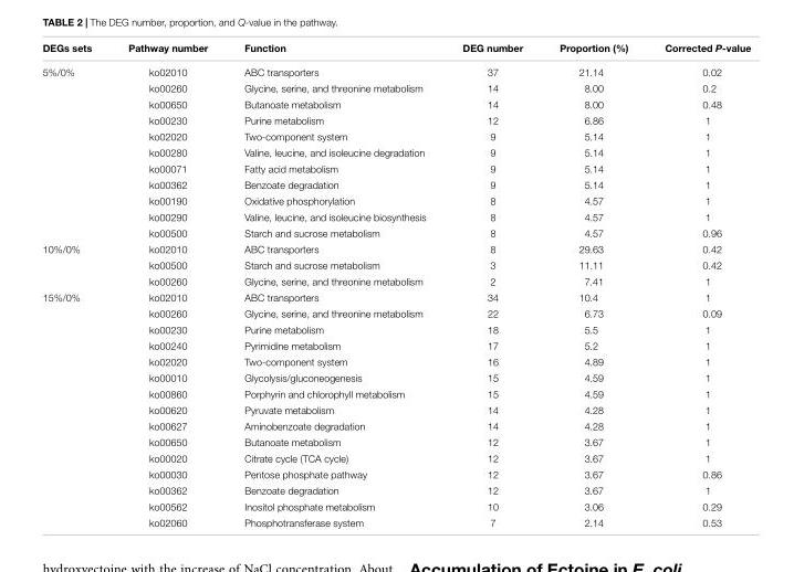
<table><thead><tr><td>DEGs sets</td><td>Pathway number</td><td>Function</td><td>DEG number</td><td>Proportion (%)</td><td>Corrected P-value</td></tr></thead><tbody><tr><td rowspan="11">5%/0%</td><td>ko02010</td><td>ABC transporters</td><td>37</td><td>21.14</td><td>0.02</td></tr><tr><td>ko00260</td><td>Glycine, serine, and threonine metabolism</td><td>14</td><td>8.00</td><td>0.2</td></tr><tr><td>ko00650</td><td>Butanoate metabolism</td><td>14</td><td>8.00</td><td>0.48</td></tr><tr><td>ko00230</td><td>Purine metabolism</td><td>12</td><td>6.86</td><td>1</td></tr><tr><td>ko02020</td><td>Two-component system</td><td>9</td><td>5.14</td><td>1</td></tr><tr><td>ko00280</td><td>Valine, leucine, and isoleucine degradation</td><td>9</td><td>5.14</td><td>1</td></tr><tr><td>ko00071</td><td>Fatty acid metabolism</td><td>9</td><td>5.14</td><td>1</td></tr><tr><td>ko00362</td><td>Benzoate degradation</td><td>9</td><td>5.14</td><td>1</td></tr><tr><td>ko00190</td><td>Oxidative phosphorylation</td><td>8</td><td>4.57</td><td>1</td></tr><tr><td>ko00290</td><td>Valine, leucine, and isoleucine biosynthesis</td><td>8</td><td>4.57</td><td>1</td></tr><tr><td>ko00500</td><td>Starch and sucrose metabolism</td><td>8</td><td>4.57</td><td>0.96</td></tr><tr><td rowspan="3">10%/0%</td><td>ko02010</td><td>ABC transporters</td><td>8</td><td>29.63</td><td>0.42</td></tr><tr><td>ko00500</td><td>Starch and sucrose metabolism</td><td>3</td><td>11.11</td><td>0.42</td></tr><tr><td>ko00260</td><td>Glycine, serine, and threonine metabolism</td><td>2</td><td>7.41</td><td>1</td></tr><tr><td rowspan="15">15%/0%</td><td>ko02010</td><td>ABC transporters</td><td>34</td><td>10.4</td><td>1</td></tr><tr><td>ko00260</td><td>Glycine, serine, and threonine metabolism</td><td>22</td><td>6.73</td><td>0.09</td></tr><tr><td>ko00230</td><td>Purine metabolism</td><td>18</td><td>5.5</td><td>1</td></tr><tr><td>ko00240</td><td>Pyrimidine metabolism</td><td>17</td><td>5.2</td><td>1</td></tr><tr><td>ko02020</td><td>Two-component system</td><td>16</td><td>4.89</td><td>1</td></tr><tr><td>ko00010</td><td>Glycolysis/gluconeogenesis</td><td>15</td><td>4.59</td><td>1</td></tr><tr><td>ko00860</td><td>Porphyrin and chlorophyll metabolism</td><td>15</td><td>4.59</td><td>1</td></tr><tr><td>ko00620</td><td>Pyruvate metabolism</td><td>14</td><td>4.28</td><td>1</td></tr><tr><td>ko00627</td><td>Aminobenzoate degradation</td><td>14</td><td>4.28</td><td>1</td></tr><tr><td>ko00650</td><td>Butanoate metabolism</td><td>12</td><td>3.67</td><td>1</td></tr><tr><td>ko00020</td><td>Citrate cycle (TCA cycle)</td><td>12</td><td>3.67</td><td>1</td></tr><tr><td>ko00030</td><td>Pentose phosphate pathway</td><td>12</td><td>3.67</td><td>0.86</td></tr><tr><td>ko00362</td><td>Benzoate degradation</td><td>12</td><td>3.67</td><td>1</td></tr><tr><td>ko00562</td><td>Inositol phosphate metabolism</td><td>10</td><td>3.06</td><td>0.29</td></tr><tr><td>ko02060</td><td>Phosphotransferase system</td><td>7</td><td>2.14</td><td>0.53</td></tr></tbody></table>